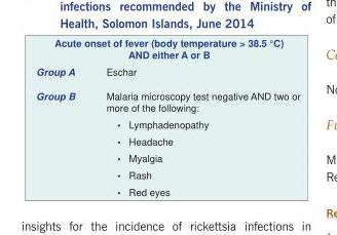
<table><tbody><tr><td colspan="2">Acute onset of fever (body temperature &gt; 38.5 °C) AND either A or B</td></tr><tr><td>Group A</td><td>Eschar</td></tr><tr><td rowspan="6">Group B</td><td>Malaria microscopy test negative AND two or more of the following:</td></tr><tr><td>• Lymphadenopathy</td></tr><tr><td>• Headache</td></tr><tr><td>• Myalgia</td></tr><tr><td>• Rash</td></tr><tr><td>• Red eyes</td></tr></tbody></table>